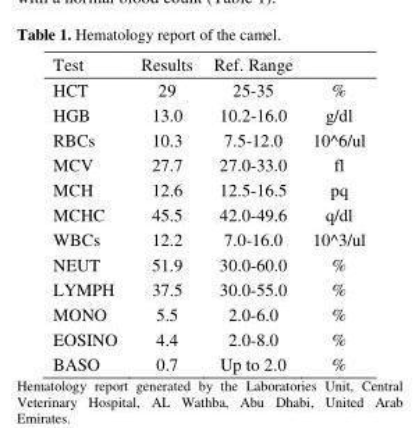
<table><thead><tr><td>Test</td><td>Results</td><td>Ref. Range</td><td></td></tr></thead><tbody><tr><td>HCT</td><td>29</td><td>25-35</td><td>%</td></tr><tr><td>HGB</td><td>13.0</td><td>10.2-16.0</td><td>g/dl</td></tr><tr><td>RBCs</td><td>10.3</td><td>7.5-12.0</td><td>10^6/ul</td></tr><tr><td>MCV</td><td>27.7</td><td>27.0-33.0</td><td>fl</td></tr><tr><td>MCH</td><td>12.6</td><td>12.5-16.5</td><td>pq</td></tr><tr><td>MCHC</td><td>45.5</td><td>42.0-49.6</td><td>q/dl</td></tr><tr><td>WBCs</td><td>12.2</td><td>7.0-16.0</td><td>10^3/ul</td></tr><tr><td>NEUT</td><td>51.9</td><td>30.0-60.0</td><td>%</td></tr><tr><td>LYMPH</td><td>37.5</td><td>30.0-55.0</td><td>%</td></tr><tr><td>MONO</td><td>5.5</td><td>2.0-6.0</td><td>%</td></tr><tr><td>EOSINO</td><td>4.4</td><td>2.0-8.0</td><td>%</td></tr><tr><td>BASO</td><td>0.7</td><td>Up to 2.0</td><td>%</td></tr></tbody></table>